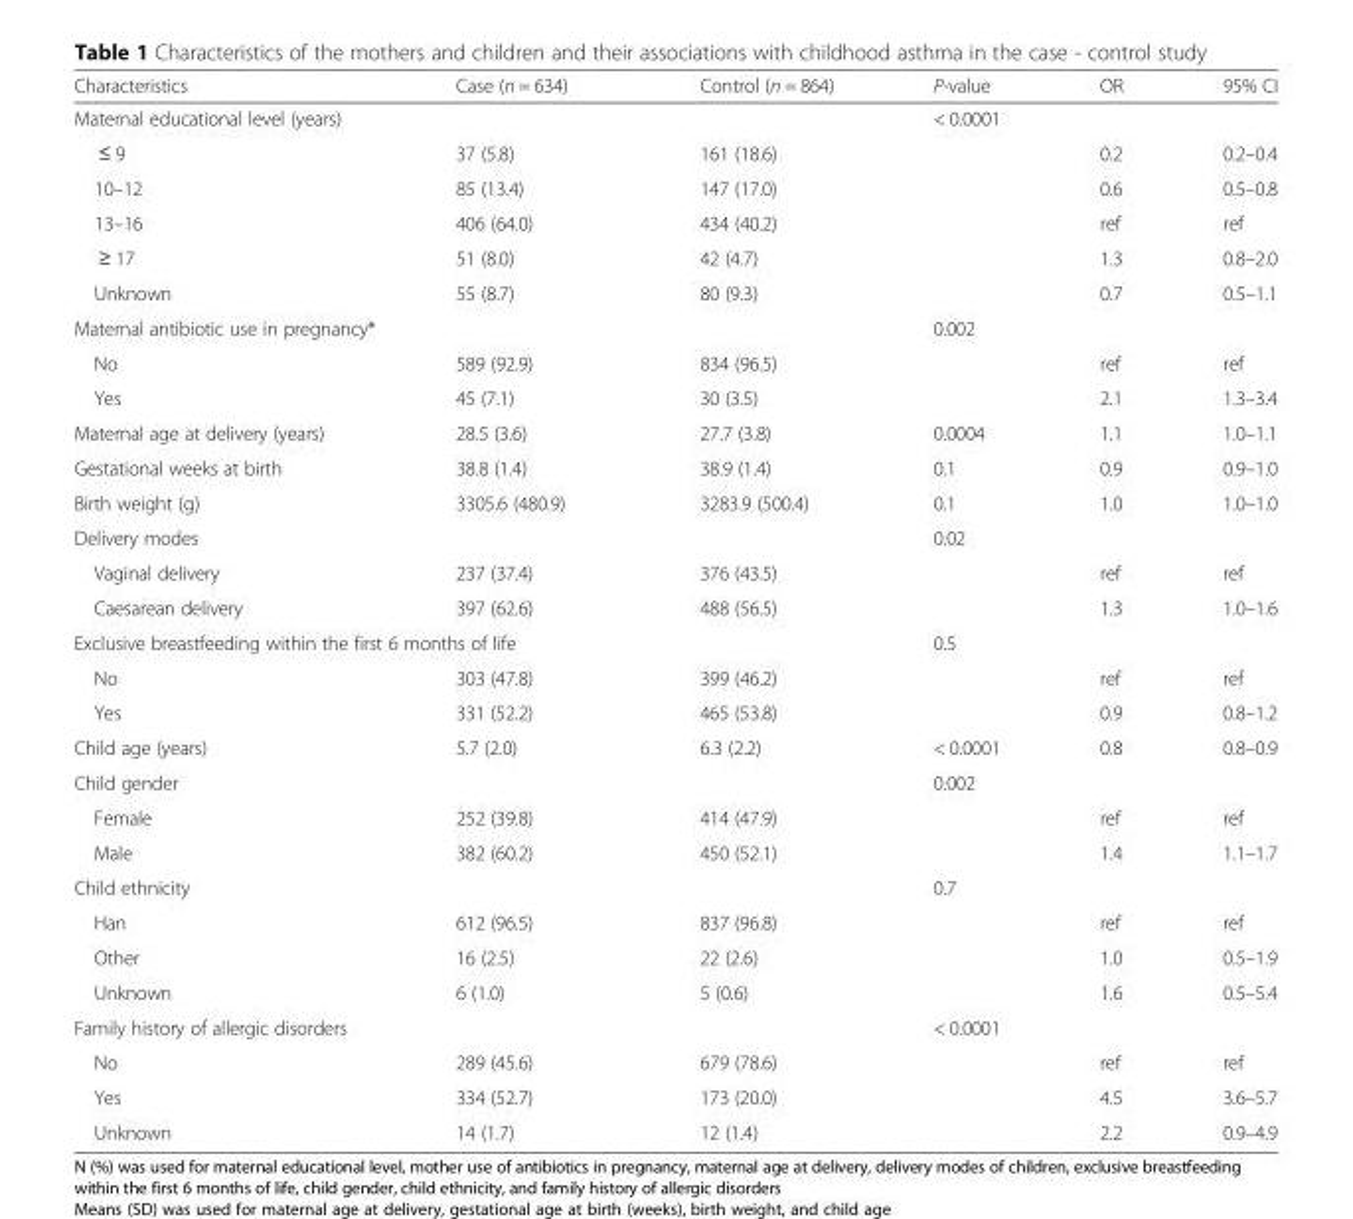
<table><thead><tr><td>Characteristics</td><td>Case (n = 634)</td><td>Control (n = 864)</td><td>P-value</td><td>OR</td><td>95% CI</td></tr></thead><tbody><tr><td colspan="3">Maternal educational level (years)</td><td>&lt; 0.0001</td><td></td><td></td></tr><tr><td>≤ 9</td><td>37 (5.8)</td><td>161 (18.6)</td><td></td><td>0.2</td><td>0.2–0.4</td></tr><tr><td>10–12</td><td>85 (13.4)</td><td>147 (17.0)</td><td></td><td>0.6</td><td>0.5–0.8</td></tr><tr><td>13–16</td><td>406 (64.0)</td><td>434 (40.2)</td><td></td><td>ref</td><td>ref</td></tr><tr><td>≥ 17</td><td>51 (8.0)</td><td>42 (4.7)</td><td></td><td>1.3</td><td>0.8–2.0</td></tr><tr><td>Unknown</td><td>55 (8.7)</td><td>80 (9.3)</td><td></td><td>0.7</td><td>0.5–1.1</td></tr><tr><td colspan="2">Maternal antibiotic use in pregnancy*</td><td></td><td>0.002</td><td></td><td></td></tr><tr><td>No</td><td>589 (92.9)</td><td>834 (96.5)</td><td></td><td>ref</td><td>ref</td></tr><tr><td>Yes</td><td>45 (7.1)</td><td>30 (3.5)</td><td></td><td>2.1</td><td>1.3–3.4</td></tr><tr><td>Maternal age at delivery (years)</td><td>28.5 (3.6)</td><td>27.7 (3.8)</td><td>0.0004</td><td>1.1</td><td>1.0–1.1</td></tr><tr><td>Gestational weeks at birth</td><td>38.8 (1.4)</td><td>38.9 (1.4)</td><td>0.1</td><td>0.9</td><td>0.9–1.0</td></tr><tr><td>Birth weight (g)</td><td>3305.6 (480.9)</td><td>3283.9 (500.4)</td><td>0.1</td><td>1.0</td><td>1.0–1.0</td></tr><tr><td>Delivery modes</td><td></td><td></td><td>0.02</td><td></td><td></td></tr><tr><td>Vaginal delivery</td><td>237 (37.4)</td><td>376 (43.5)</td><td></td><td>ref</td><td>ref</td></tr><tr><td>Caesarean delivery</td><td>397 (62.6)</td><td>488 (56.5)</td><td></td><td>1.3</td><td>1.0–1.6</td></tr><tr><td colspan="2">Exclusive breastfeeding within the first 6 months of life</td><td></td><td>0.5</td><td></td><td></td></tr><tr><td>No</td><td>303 (47.8)</td><td>399 (46.2)</td><td></td><td>ref</td><td>ref</td></tr><tr><td>Yes</td><td>331 (52.2)</td><td>465 (53.8)</td><td></td><td>0.9</td><td>0.8–1.2</td></tr><tr><td>Child age (years)</td><td>5.7 (2.0)</td><td>6.3 (2.2)</td><td>&lt; 0.0001</td><td>0.8</td><td>0.8–0.9</td></tr><tr><td>Child gender</td><td></td><td></td><td>0.002</td><td></td><td></td></tr><tr><td>Female</td><td>252 (39.8)</td><td>414 (47.9)</td><td></td><td>ref</td><td>ref</td></tr><tr><td>Male</td><td>382 (60.2)</td><td>450 (52.1)</td><td></td><td>1.4</td><td>1.1–1.7</td></tr><tr><td colspan="3">Child ethnicity</td><td>0.7</td><td></td><td></td></tr><tr><td>Han</td><td>612 (96.5)</td><td>837 (96.8)</td><td></td><td>ref</td><td>ref</td></tr><tr><td>Other</td><td>16 (2.5)</td><td>22 (2.6)</td><td></td><td>1.0</td><td>0.5–1.9</td></tr><tr><td>Unknown</td><td>6 (1.0)</td><td>5 (0.6)</td><td></td><td>1.6</td><td>0.5–5.4</td></tr><tr><td colspan="3">Family history of allergic disorders</td><td>&lt; 0.0001</td><td></td><td></td></tr><tr><td>No</td><td>289 (45.6)</td><td>679 (78.6)</td><td></td><td>ref</td><td>ref</td></tr><tr><td>Yes</td><td>334 (52.7)</td><td>173 (20.0)</td><td></td><td>4.5</td><td>3.6–5.7</td></tr><tr><td>Unknown</td><td>14 (1.7)</td><td>12 (1.4)</td><td></td><td>2.2</td><td>0.9–4.9</td></tr></tbody></table>